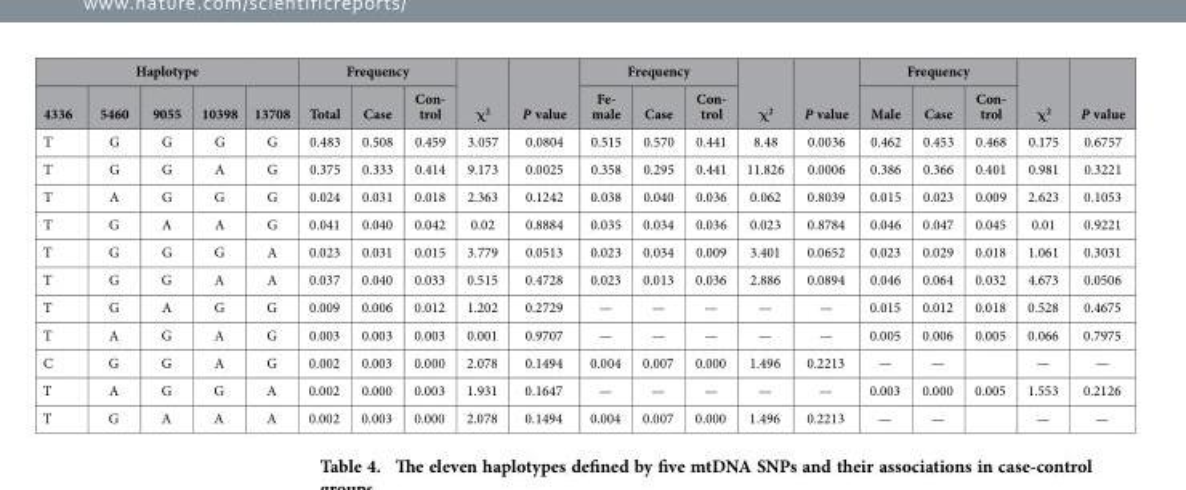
<table><thead><tr><td colspan="5">Haplotype</td><td colspan="3">Frequency</td><td rowspan="2">χ<sup>2</sup></td><td rowspan="2">P value</td><td colspan="3">Frequency</td><td rowspan="2">χ<sup>2</sup></td><td rowspan="2">P value</td><td colspan="3">Frequency</td><td rowspan="2">χ<sup>2</sup></td><td rowspan="2">P value</td></tr><tr><td>4336</td><td>5460</td><td>9055</td><td>10398</td><td>13708</td><td>Total</td><td>Case</td><td>Con- trol</td><td>Fe- male</td><td>Case</td><td>Con- trol</td><td>Male</td><td>Case</td><td>Con- trol</td></tr></thead><tbody><tr><td>T</td><td>G</td><td>G</td><td>G</td><td>G</td><td>0.483</td><td>0.508</td><td>0.459</td><td>3.057</td><td>0.0804</td><td>0.515</td><td>0.570</td><td>0.441</td><td>8.48</td><td>0.0036</td><td>0.462</td><td>0.453</td><td>0.468</td><td>0.175</td><td>0.6757</td></tr><tr><td>T</td><td>G</td><td>G</td><td>A</td><td>G</td><td>0.375</td><td>0.333</td><td>0.414</td><td>9.173</td><td>0.0025</td><td>0.358</td><td>0.295</td><td>0.441</td><td>11.826</td><td>0.0006</td><td>0.386</td><td>0.366</td><td>0.401</td><td>0.981</td><td>0.3221</td></tr><tr><td>T</td><td>A</td><td>G</td><td>G</td><td>G</td><td>0.024</td><td>0.031</td><td>0.018</td><td>2.363</td><td>0.1242</td><td>0.038</td><td>0.040</td><td>0.036</td><td>0.062</td><td>0.8039</td><td>0.015</td><td>0.023</td><td>0.009</td><td>2.623</td><td>0.1053</td></tr><tr><td>T</td><td>G</td><td>A</td><td>A</td><td>G</td><td>0.041</td><td>0.040</td><td>0.042</td><td>0.02</td><td>0.8884</td><td>0.035</td><td>0.034</td><td>0.036</td><td>0.023</td><td>0.8784</td><td>0.046</td><td>0.047</td><td>0.045</td><td>0.01</td><td>0.9221</td></tr><tr><td>T</td><td>G</td><td>G</td><td>G</td><td>A</td><td>0.023</td><td>0.031</td><td>0.015</td><td>3.779</td><td>0.0513</td><td>0.023</td><td>0.034</td><td>0.009</td><td>3.401</td><td>0.0652</td><td>0.023</td><td>0.029</td><td>0.018</td><td>1.061</td><td>0.3031</td></tr><tr><td>T</td><td>G</td><td>G</td><td>A</td><td>A</td><td>0.037</td><td>0.040</td><td>0.033</td><td>0.515</td><td>0.4728</td><td>0.023</td><td>0.013</td><td>0.036</td><td>2.886</td><td>0.0894</td><td>0.046</td><td>0.064</td><td>0.032</td><td>4.673</td><td>0.0506</td></tr><tr><td>T</td><td>G</td><td>A</td><td>G</td><td>G</td><td>0.009</td><td>0.006</td><td>0.012</td><td>1.202</td><td>0.2729</td><td>—</td><td>—</td><td>—</td><td>—</td><td>—</td><td>0.015</td><td>0.012</td><td>0.018</td><td>0.528</td><td>0.4675</td></tr><tr><td>T</td><td>A</td><td>G</td><td>A</td><td>G</td><td>0.003</td><td>0.003</td><td>0.003</td><td>0.001</td><td>0.9707</td><td>—</td><td>—</td><td>—</td><td>—</td><td>—</td><td>0.005</td><td>0.006</td><td>0.005</td><td>0.066</td><td>0.7975</td></tr><tr><td>C</td><td>G</td><td>G</td><td>A</td><td>G</td><td>0.002</td><td>0.003</td><td>0.000</td><td>2.078</td><td>0.1494</td><td>0.004</td><td>0.007</td><td>0.000</td><td>1.496</td><td>0.2213</td><td>—</td><td>—</td><td></td><td>—</td><td>—</td></tr><tr><td>T</td><td>A</td><td>G</td><td>G</td><td>A</td><td>0.002</td><td>0.000</td><td>0.003</td><td>1.931</td><td>0.1647</td><td>—</td><td>—</td><td>—</td><td>—</td><td>—</td><td>0.003</td><td>0.000</td><td>0.005</td><td>1.553</td><td>0.2126</td></tr><tr><td>T</td><td>G</td><td>A</td><td>A</td><td>A</td><td>0.002</td><td>0.003</td><td>0.000</td><td>2.078</td><td>0.1494</td><td>0.004</td><td>0.007</td><td>0.000</td><td>1.496</td><td>0.2213</td><td>—</td><td>—</td><td></td><td>—</td><td>—</td></tr></tbody></table>